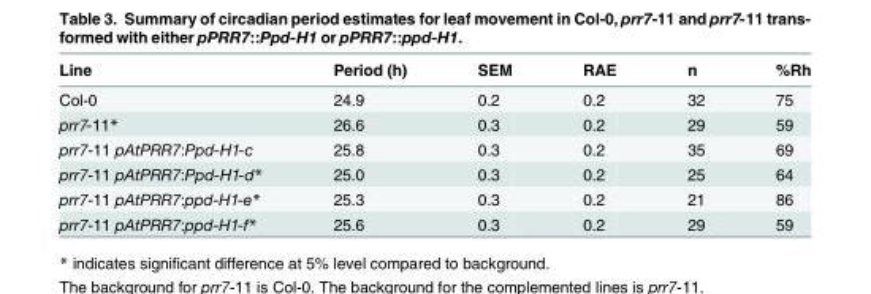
<table><thead><tr><td>Line</td><td>Period (h)</td><td>SEM</td><td>RAE</td><td>n</td><td>%Rh</td></tr></thead><tbody><tr><td>Col-0</td><td>24.9</td><td>0.2</td><td>0.2</td><td>32</td><td>75</td></tr><tr><td>prr7-11*</td><td>26.6</td><td>0.3</td><td>0.2</td><td>29</td><td>59</td></tr><tr><td>prr7-11 pAtPRR7:Ppd-H1-c</td><td>25.8</td><td>0.3</td><td>0.2</td><td>35</td><td>69</td></tr><tr><td>prr7-11 pAtPRR7:Ppd-H1-d*</td><td>25.0</td><td>0.3</td><td>0.2</td><td>25</td><td>64</td></tr><tr><td>prr7-11 pAtPRR7:ppd-H1-e*</td><td>25.3</td><td>0.3</td><td>0.2</td><td>21</td><td>86</td></tr><tr><td>prr7-11 pAtPRR7:ppd-H1-f*</td><td>25.6</td><td>0.3</td><td>0.2</td><td>29</td><td>59</td></tr></tbody></table>